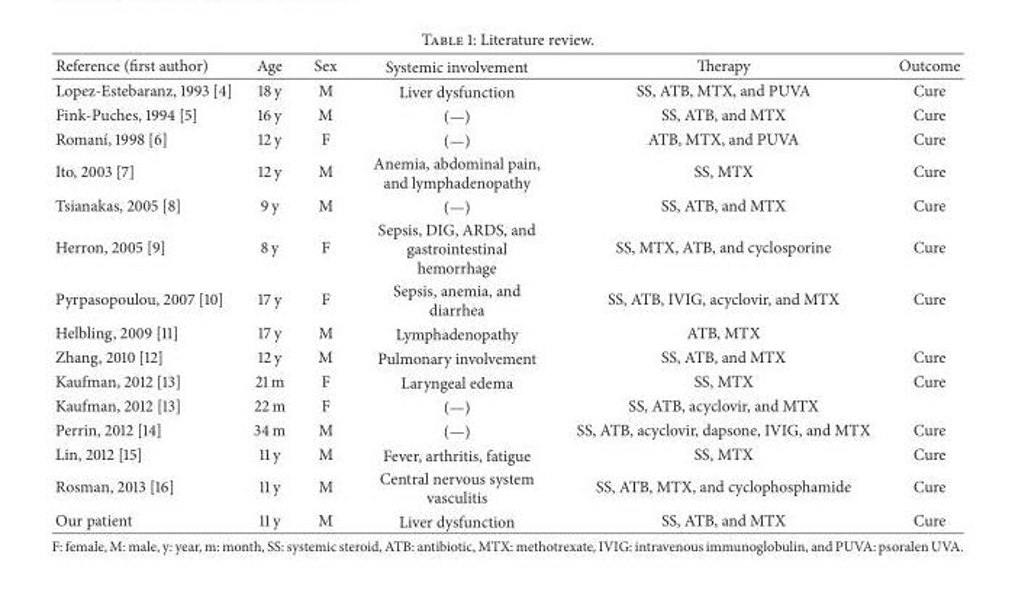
<table><thead><tr><td>Reference (first author)</td><td>Age</td><td>Sex</td><td>Systemic involvement</td><td>Therapy</td><td>Outcome</td></tr></thead><tbody><tr><td>Lopez-Estebaranz, 1993 [4]</td><td>18 y</td><td>M</td><td>Liver dysfunction</td><td>SS, ATB, MTX, and PUVA</td><td>Cure</td></tr><tr><td>Fink-Puches, 1994 [5]</td><td>16 y</td><td>M</td><td>(—)</td><td>SS, ATB, and MTX</td><td>Cure</td></tr><tr><td>Roman´ı, 1998 [6]</td><td>12 y</td><td>F</td><td>(—)</td><td>ATB, MTX, and PUVA</td><td>Cure</td></tr><tr><td>Ito, 2003 [7]</td><td>12 y</td><td>M</td><td>Anemia, abdominal pain, and lymphadenopathy</td><td>SS, MTX</td><td>Cure</td></tr><tr><td>Tsianakas, 2005 [8]</td><td>9 y</td><td>M</td><td>(—)</td><td>SS, ATB, and MTX</td><td>Cure</td></tr><tr><td>Herron, 2005 [9]</td><td>8 y</td><td>F</td><td>Sepsis, DIG, ARDS, and gastrointestinal hemorrhage</td><td>SS, MTX, ATB, and cyclosporine</td><td>Cure</td></tr><tr><td>Pyrpasopoulou, 2007 [10]</td><td>17 y</td><td>F</td><td>Sepsis, anemia, and diarrhea</td><td>SS, ATB, IVIG, acyclovir, and MTX</td><td>Cure</td></tr><tr><td>Helbling, 2009 [11]</td><td>17 y</td><td>M</td><td>Lymphadenopathy</td><td>ATB, MTX</td><td></td></tr><tr><td>Zhang, 2010 [12]</td><td>12 y</td><td>M</td><td>Pulmonary involvement</td><td>SS, ATB, and MTX</td><td>Cure</td></tr><tr><td>Kaufman, 2012 [13]</td><td>21 m</td><td>F</td><td>Laryngeal edema</td><td>SS, MTX</td><td>Cure</td></tr><tr><td>Kaufman, 2012 [13]</td><td>22 m</td><td>F</td><td>(—)</td><td>SS, ATB, acyclovir, and MTX</td><td></td></tr><tr><td>Perrin, 2012 [14]</td><td>34 m</td><td>M</td><td>(—)</td><td>SS, ATB, acyclovir, dapsone, IVIG, and MTX</td><td>Cure</td></tr><tr><td>Lin, 2012 [15]</td><td>11 y</td><td>M</td><td>Fever, arthritis, fatigue</td><td>SS, MTX</td><td>Cure</td></tr><tr><td>Rosman, 2013 [16]</td><td>11 y</td><td>M</td><td>Central nervous system vasculitis</td><td>SS, ATB, MTX, and cyclophosphamide</td><td>Cure</td></tr><tr><td>Our patient</td><td>11 y</td><td>M</td><td>Liver dysfunction</td><td>SS, ATB, and MTX</td><td>Cure</td></tr></tbody></table>